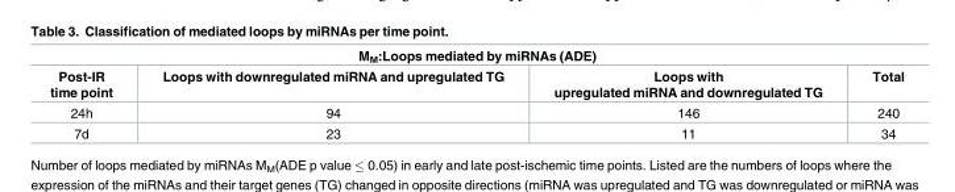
<table><thead><tr><td colspan="4">M<sub>M</sub>:Loops mediated by miRNAs (ADE)</td></tr><tr><td>Post-IR time point</td><td>Loops with downregulated miRNA and upregulated TG</td><td>Loops with upregulated miRNA and downregulated TG</td><td>Total</td></tr></thead><tbody><tr><td>24h</td><td>94</td><td>146</td><td>240</td></tr><tr><td>7d</td><td>23</td><td>11</td><td>34</td></tr></tbody></table>